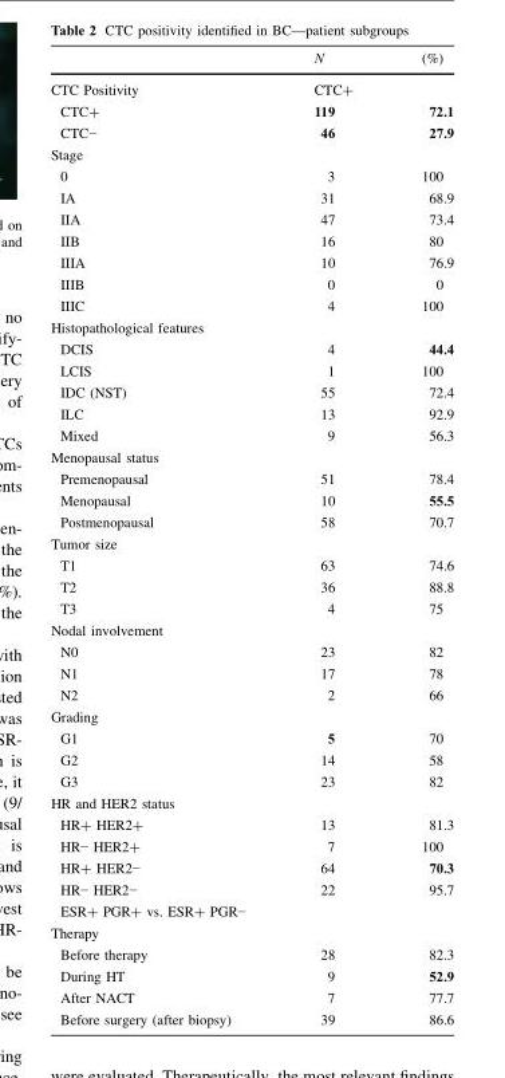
<table><thead><tr><td></td><td>N</td><td>(%)</td></tr></thead><tbody><tr><td>CTC Positivity</td><td>CTC+</td><td></td></tr><tr><td>CTC+</td><td>119</td><td>72.1</td></tr><tr><td>CTC−</td><td>46</td><td>27.9</td></tr><tr><td colspan="3">Stage</td></tr><tr><td>0</td><td>3</td><td>100</td></tr><tr><td>IA</td><td>31</td><td>68.9</td></tr><tr><td>IIA</td><td>47</td><td>73.4</td></tr><tr><td>IIB</td><td>16</td><td>80</td></tr><tr><td>IIIA</td><td>10</td><td>76.9</td></tr><tr><td>IIIB</td><td>0</td><td>0</td></tr><tr><td>IIIC</td><td>4</td><td>100</td></tr><tr><td colspan="3">Histopathological features</td></tr><tr><td>DCIS</td><td>4</td><td>44.4</td></tr><tr><td>LCIS</td><td>1</td><td>100</td></tr><tr><td>IDC (NST)</td><td>55</td><td>72.4</td></tr><tr><td>ILC</td><td>13</td><td>92.9</td></tr><tr><td>Mixed</td><td>9</td><td>56.3</td></tr><tr><td colspan="3">Menopausal status</td></tr><tr><td>Premenopausal</td><td>51</td><td>78.4</td></tr><tr><td>Menopausal</td><td>10</td><td>55.5</td></tr><tr><td>Postmenopausal</td><td>58</td><td>70.7</td></tr><tr><td colspan="3">Tumor size</td></tr><tr><td>T1</td><td>63</td><td>74.6</td></tr><tr><td>T2</td><td>36</td><td>88.8</td></tr><tr><td>T3</td><td>4</td><td>75</td></tr><tr><td colspan="3">Nodal involvement</td></tr><tr><td>N0</td><td>23</td><td>82</td></tr><tr><td>N1</td><td>17</td><td>78</td></tr><tr><td>N2</td><td>2</td><td>66</td></tr><tr><td colspan="3">Grading</td></tr><tr><td>G1</td><td>5</td><td>70</td></tr><tr><td>G2</td><td>14</td><td>58</td></tr><tr><td>G3</td><td>23</td><td>82</td></tr><tr><td colspan="3">HR and HER2 status</td></tr><tr><td>HR+ HER2+</td><td>13</td><td>81.3</td></tr><tr><td>HR− HER2+</td><td>7</td><td>100</td></tr><tr><td>HR+ HER2−</td><td>64</td><td>70.3</td></tr><tr><td>HR− HER2−</td><td>22</td><td>95.7</td></tr><tr><td colspan="3">ESR+ PGR+ vs. ESR+ PGR−</td></tr><tr><td colspan="3">Therapy</td></tr><tr><td>Before therapy</td><td>28</td><td>82.3</td></tr><tr><td>During HT</td><td>9</td><td>52.9</td></tr><tr><td>After NACT</td><td>7</td><td>77.7</td></tr><tr><td>Before surgery (after biopsy)</td><td>39</td><td>86.6</td></tr></tbody></table>